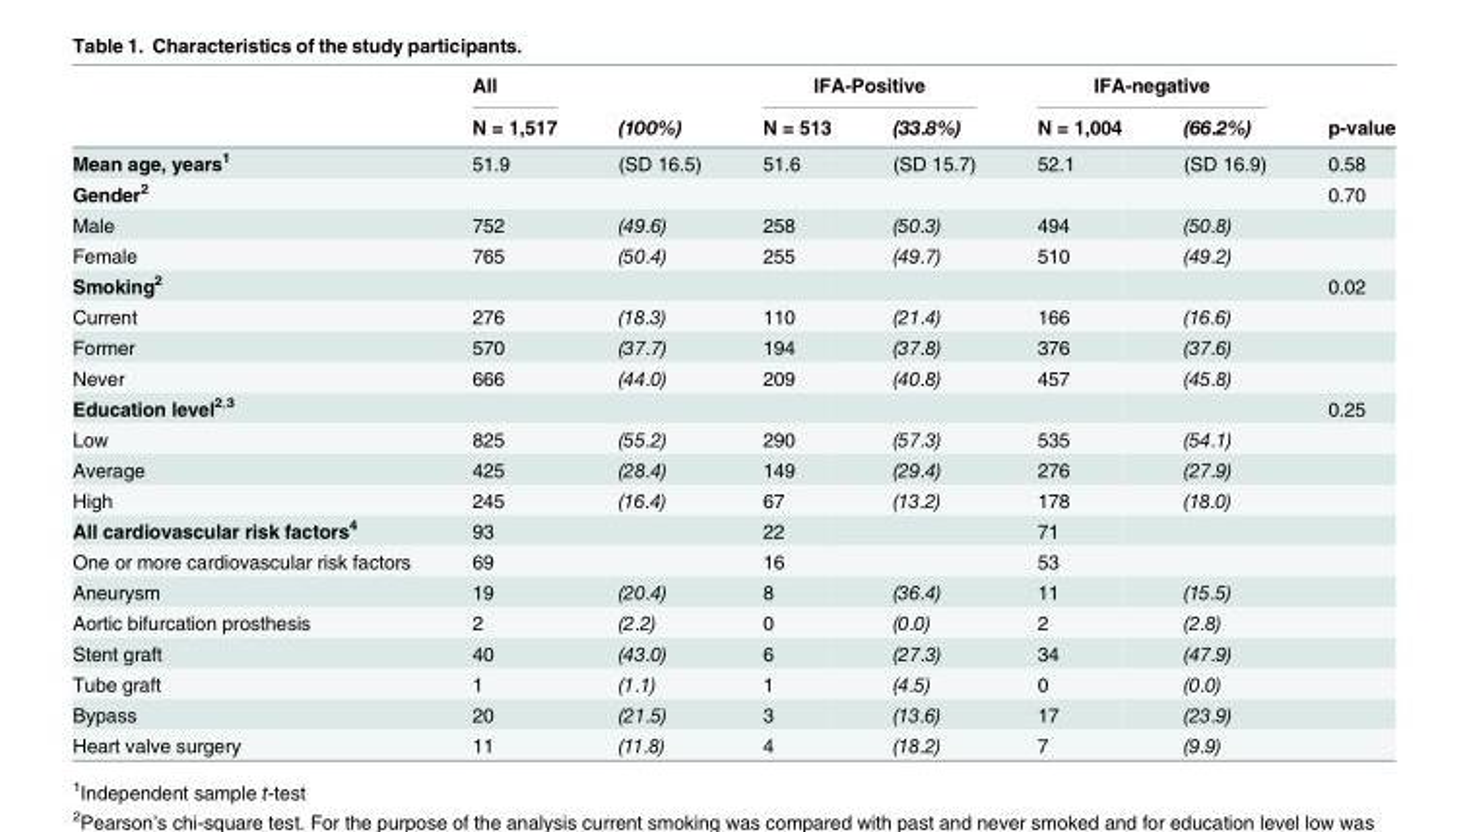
<table><thead><tr><td rowspan="2"></td><td rowspan="2">All N = 1,517</td><td rowspan="2">(100%)</td><td colspan="2">IFA-Positive</td><td colspan="2">IFA-negative</td><td rowspan="2">p-value</td></tr><tr><td>N = 513</td><td>(33.8%)</td><td>N = 1,004</td><td>(66.2%)</td></tr></thead><tbody><tr><td>Mean age, years<sup>1</sup></td><td>51.9</td><td>(SD 16.5)</td><td>51.6</td><td>(SD 15.7)</td><td>52.1</td><td>(SD 16.9)</td><td>0.58</td></tr><tr><td>Gender<sup>2</sup></td><td></td><td></td><td></td><td></td><td></td><td></td><td>0.70</td></tr><tr><td>Male</td><td>752</td><td>(49.6)</td><td>258</td><td>(50.3)</td><td>494</td><td>(50.8)</td><td></td></tr><tr><td>Female</td><td>765</td><td>(50.4)</td><td>255</td><td>(49.7)</td><td>510</td><td>(49.2)</td><td></td></tr><tr><td>Smoking<sup>2</sup></td><td></td><td></td><td></td><td></td><td></td><td></td><td>0.02</td></tr><tr><td>Current</td><td>276</td><td>(18.3)</td><td>110</td><td>(21.4)</td><td>166</td><td>(16.6)</td><td></td></tr><tr><td>Former</td><td>570</td><td>(37.7)</td><td>194</td><td>(37.8)</td><td>376</td><td>(37.6)</td><td></td></tr><tr><td>Never</td><td>666</td><td>(44.0)</td><td>209</td><td>(40.8)</td><td>457</td><td>(45.8)</td><td></td></tr><tr><td>Education level<sup>2,3</sup></td><td></td><td></td><td></td><td></td><td></td><td></td><td>0.25</td></tr><tr><td>Low</td><td>825</td><td>(55.2)</td><td>290</td><td>(57.3)</td><td>535</td><td>(54.1)</td><td></td></tr><tr><td>Average</td><td>425</td><td>(28.4)</td><td>149</td><td>(29.4)</td><td>276</td><td>(27.9)</td><td></td></tr><tr><td>High</td><td>245</td><td>(16.4)</td><td>67</td><td>(13.2)</td><td>178</td><td>(18.0)</td><td></td></tr><tr><td>All cardiovascular risk factors<sup>4</sup></td><td>93</td><td></td><td>22</td><td></td><td>71</td><td></td><td></td></tr><tr><td>One or more cardiovascular risk factors</td><td>69</td><td></td><td>16</td><td></td><td>53</td><td></td><td></td></tr><tr><td>Aneurysm</td><td>19</td><td>(20.4)</td><td>8</td><td>(36.4)</td><td>11</td><td>(15.5)</td><td></td></tr><tr><td>Aortic bifurcation prosthesis</td><td>2</td><td>(2.2)</td><td>0</td><td>(0.0)</td><td>2</td><td>(2.8)</td><td></td></tr><tr><td>Stent graft</td><td>40</td><td>(43.0)</td><td>6</td><td>(27.3)</td><td>34</td><td>(47.9)</td><td></td></tr><tr><td>Tube graft</td><td>1</td><td>(1.1)</td><td>1</td><td>(4.5)</td><td>0</td><td>(0.0)</td><td></td></tr><tr><td>Bypass</td><td>20</td><td>(21.5)</td><td>3</td><td>(13.6)</td><td>17</td><td>(23.9)</td><td></td></tr><tr><td>Heart valve surgery</td><td>11</td><td>(11.8)</td><td>4</td><td>(18.2)</td><td>7</td><td>(9.9)</td><td></td></tr></tbody></table>